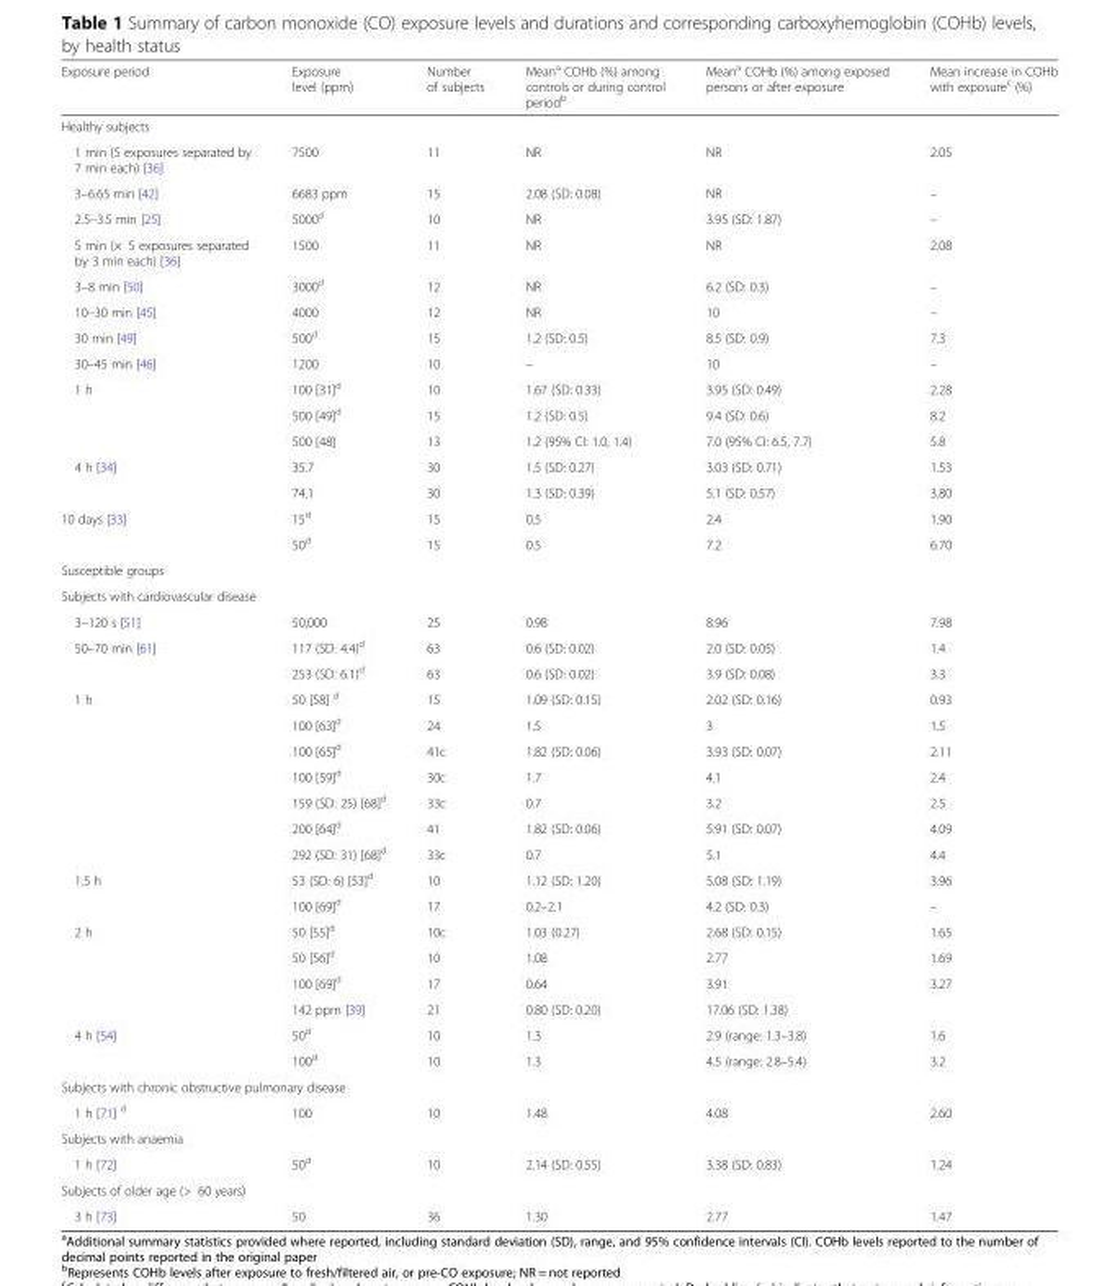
<table><thead><tr><td>Exposure period</td><td>Exposure level (ppm)</td><td>Number of subjects</td><td>Mean<sup>a</sup> COHb (%) among controls or during control period<sup>b</sup></td><td>Mean<sup>a</sup> COHb (%) among exposed persons or after exposure</td><td>Mean increase in COHb with exposure<sup>c</sup> (%)</td></tr></thead><tbody><tr><td colspan="6">Healthy subjects</td></tr><tr><td>1 min (5 exposures separated by 7 min each) [36]</td><td>7500</td><td>11</td><td>NR</td><td>NR</td><td>2.05</td></tr><tr><td>3–6.65 min [42]</td><td>6683 ppm</td><td>15</td><td>2.08 (SD: 0.08)</td><td>NR</td><td>–</td></tr><tr><td>2.5–3.5 min [25]</td><td>5000<sup>d</sup></td><td>10</td><td>NR</td><td>3.95 (SD: 1.87)</td><td>–</td></tr><tr><td>5 min (× 5 exposures separated by 3 min each) [36]</td><td>1500</td><td>11</td><td>NR</td><td>NR</td><td>2.08</td></tr><tr><td>3–8 min [50]</td><td>3000<sup>d</sup></td><td>12</td><td>NR</td><td>6.2 (SD: 0.3)</td><td>–</td></tr><tr><td>10–30 min [45]</td><td>4000</td><td>12</td><td>NR</td><td>10</td><td>–</td></tr><tr><td>30 min [49]</td><td>500<sup>d</sup></td><td>15</td><td>1.2 (SD: 0.5)</td><td>8.5 (SD: 0.9)</td><td>7.3</td></tr><tr><td>30–45 min [46]</td><td>1200</td><td>10</td><td>–</td><td>10</td><td>–</td></tr><tr><td rowspan="3">1 h</td><td>100 [31]<sup>d</sup></td><td>10</td><td>1.67 (SD: 0.33)</td><td>3.95 (SD: 0.49)</td><td>2.28</td></tr><tr><td>500 [49]<sup>d</sup></td><td>15</td><td>1.2 (SD: 0.5)</td><td>9.4 (SD: 0.6)</td><td>8.2</td></tr><tr><td>500 [48]</td><td>13</td><td>1.2 (95% CI: 1.0, 1.4)</td><td>7.0 (95% CI: 6.5, 7.7)</td><td>5.8</td></tr><tr><td rowspan="2">4 h [34]</td><td>35.7</td><td>30</td><td>1.5 (SD: 0.27)</td><td>3.03 (SD: 0.71)</td><td>1.53</td></tr><tr><td>74.1</td><td>30</td><td>1.3 (SD: 0.39)</td><td>5.1 (SD: 0.57)</td><td>3.80</td></tr><tr><td rowspan="2">10 days [33]</td><td>15<sup>d</sup></td><td>15</td><td>0.5</td><td>2.4</td><td>1.90</td></tr><tr><td>50<sup>d</sup></td><td>15</td><td>0.5</td><td>7.2</td><td>6.70</td></tr><tr><td colspan="6">Susceptible groups</td></tr><tr><td colspan="6">Subjects with cardiovascular disease</td></tr><tr><td>3–120 s [51]</td><td>50,000</td><td>25</td><td>0.98</td><td>8.96</td><td>7.98</td></tr><tr><td rowspan="2">50–70 min [61]</td><td>117 (SD: 4.4)<sup>d</sup></td><td>63</td><td>0.6 (SD: 0.02)</td><td>2.0 (SD: 0.05)</td><td>1.4</td></tr><tr><td>253 (SD: 6.1)<sup>d</sup></td><td>63</td><td>0.6 (SD: 0.02)</td><td>3.9 (SD: 0.08)</td><td>3.3</td></tr><tr><td rowspan="7">1 h</td><td>50 [58] <sup>d</sup></td><td>15</td><td>1.09 (SD: 0.15)</td><td>2.02 (SD: 0.16)</td><td>0.93</td></tr><tr><td>100 [63]<sup>d</sup></td><td>24</td><td>1.5</td><td>3</td><td>1.5</td></tr><tr><td>100 [65]<sup>d</sup></td><td>41c</td><td>1.82 (SD: 0.06)</td><td>3.93 (SD: 0.07)</td><td>2.11</td></tr><tr><td>100 [59]<sup>d</sup></td><td>30c</td><td>1.7</td><td>4.1</td><td>2.4</td></tr><tr><td>159 (SD: 25) [68]<sup>d</sup></td><td>33c</td><td>0.7</td><td>3.2</td><td>2.5</td></tr><tr><td>200 [64]<sup>d</sup></td><td>41</td><td>1.82 (SD: 0.06)</td><td>5.91 (SD: 0.07)</td><td>4.09</td></tr><tr><td>292 (SD: 31) [68]<sup>d</sup></td><td>33c</td><td>0.7</td><td>5.1</td><td>4.4</td></tr><tr><td rowspan="2">1.5 h</td><td>53 (SD: 6) [53]<sup>d</sup></td><td>10</td><td>1.12 (SD: 1.20)</td><td>5.08 (SD: 1.19)</td><td>3.96</td></tr><tr><td>100 [69]<sup>d</sup></td><td>17</td><td>0.2–2.1</td><td>4.2 (SD: 0.3)</td><td>–</td></tr><tr><td rowspan="4">2 h</td><td>50 [55]<sup>d</sup></td><td>10c</td><td>1.03 (0.27)</td><td>2.68 (SD: 0.15)</td><td>1.65</td></tr><tr><td>50 [56]<sup>d</sup></td><td>10</td><td>1.08</td><td>2.77</td><td>1.69</td></tr><tr><td>100 [69]<sup>d</sup></td><td>17</td><td>0.64</td><td>3.91</td><td>3.27</td></tr><tr><td>142 ppm [39]</td><td>21</td><td>0.80 (SD: 0.20)</td><td>17.06 (SD: 1.38)</td><td></td></tr><tr><td rowspan="2">4 h [54]</td><td>50<sup>d</sup></td><td>10</td><td>1.3</td><td>2.9 (range: 1.3–3.8)</td><td>1.6</td></tr><tr><td>100<sup>d</sup></td><td>10</td><td>1.3</td><td>4.5 (range: 2.8–5.4)</td><td>3.2</td></tr><tr><td colspan="6">Subjects with chronic obstructive pulmonary disease</td></tr><tr><td>1 h [71] <sup>d</sup></td><td>100</td><td>10</td><td>1.48</td><td>4.08</td><td>2.60</td></tr><tr><td colspan="6">Subjects with anaemia</td></tr><tr><td>1 h [72]</td><td>50<sup>d</sup></td><td>10</td><td>2.14 (SD: 0.55)</td><td>3.38 (SD: 0.83)</td><td>1.24</td></tr><tr><td colspan="6">Subjects of older age (&gt; 60 years)</td></tr><tr><td>3 h [73]</td><td>50</td><td>36</td><td>1.30</td><td>2.77</td><td>1.47</td></tr></tbody></table>